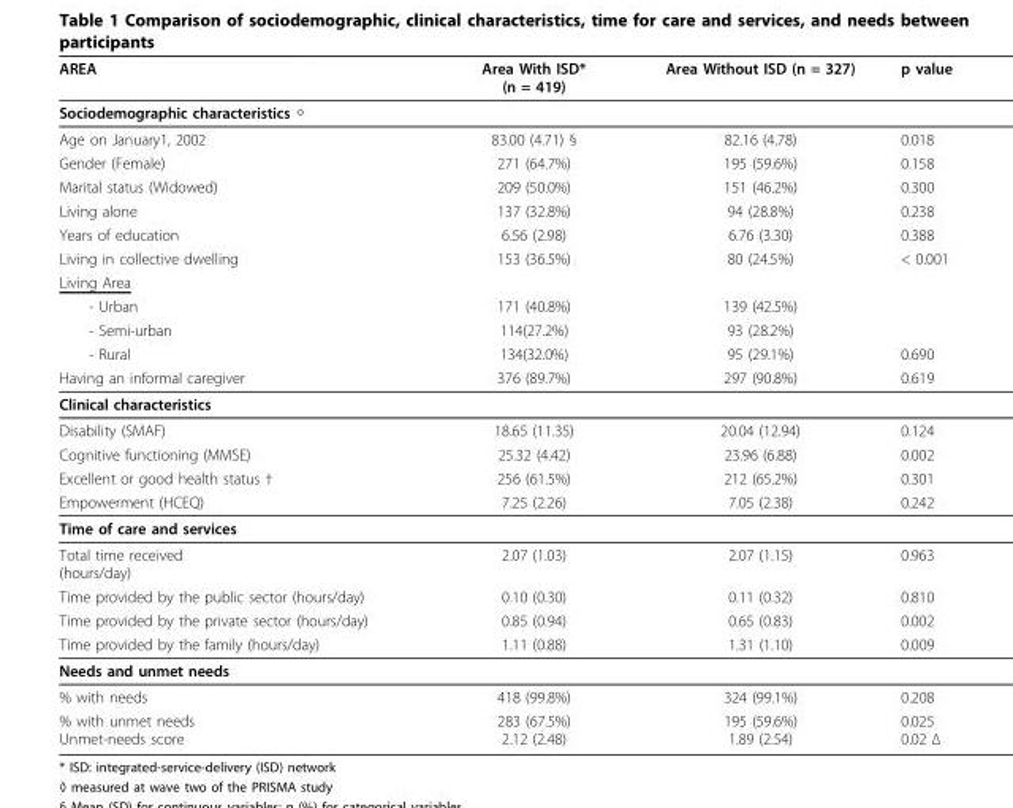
<table><thead><tr><td>AREA</td><td>Area With ISD* (n = 419)</td><td>Area Without ISD (n = 327)</td><td>p value</td></tr></thead><tbody><tr><td colspan="4">Sociodemographic characteristics ◇</td></tr><tr><td>Age on January1, 2002</td><td>83.00 (4.71) §</td><td>82.16 (4.78)</td><td>0.018</td></tr><tr><td>Gender (Female)</td><td>271 (64.7%)</td><td>195 (59.6%)</td><td>0.158</td></tr><tr><td>Marital status (Widowed)</td><td>209 (50.0%)</td><td>151 (46.2%)</td><td>0.300</td></tr><tr><td>Living alone</td><td>137 (32.8%)</td><td>94 (28.8%)</td><td>0.238</td></tr><tr><td>Years of education</td><td>6.56 (2.98)</td><td>6.76 (3.30)</td><td>0.388</td></tr><tr><td>Living in collective dwelling</td><td>153 (36.5%)</td><td>80 (24.5%)</td><td>&lt; 0.001</td></tr><tr><td colspan="4">Living Area</td></tr><tr><td>- Urban</td><td>171 (40.8%)</td><td>139 (42.5%)</td><td></td></tr><tr><td>- Semi-urban</td><td>114(27.2%)</td><td>93 (28.2%)</td><td></td></tr><tr><td>- Rural</td><td>134(32.0%)</td><td>95 (29.1%)</td><td>0.690</td></tr><tr><td>Having an informal caregiver</td><td>376 (89.7%)</td><td>297 (90.8%)</td><td>0.619</td></tr><tr><td colspan="4">Clinical characteristics</td></tr><tr><td>Disability (SMAF)</td><td>18.65 (11.35)</td><td>20.04 (12.94)</td><td>0.124</td></tr><tr><td>Cognitive functioning (MMSE)</td><td>25.32 (4.42)</td><td>23.96 (6.88)</td><td>0.002</td></tr><tr><td>Excellent or good health status †</td><td>256 (61.5%)</td><td>212 (65.2%)</td><td>0.301</td></tr><tr><td>Empowerment (HCEQ)</td><td>7.25 (2.26)</td><td>7.05 (2.38)</td><td>0.242</td></tr><tr><td colspan="4">Time of care and services</td></tr><tr><td>Total time received (hours/day)</td><td>2.07 (1.03)</td><td>2.07 (1.15)</td><td>0.963</td></tr><tr><td>Time provided by the public sector (hours/day)</td><td>0.10 (0.30)</td><td>0.11 (0.32)</td><td>0.810</td></tr><tr><td>Time provided by the private sector (hours/day)</td><td>0.85 (0.94)</td><td>0.65 (0.83)</td><td>0.002</td></tr><tr><td>Time provided by the family (hours/day)</td><td>1.11 (0.88)</td><td>1.31 (1.10)</td><td>0.009</td></tr><tr><td colspan="4">Needs and unmet needs</td></tr><tr><td>% with needs</td><td>418 (99.8%)</td><td>324 (99.1%)</td><td>0.208</td></tr><tr><td>% with unmet needs Unmet-needs score</td><td>283 (67.5%) 2.12 (2.48)</td><td>195 (59.6%) 1.89 (2.54)</td><td>0.025 0.02 Δ</td></tr></tbody></table>